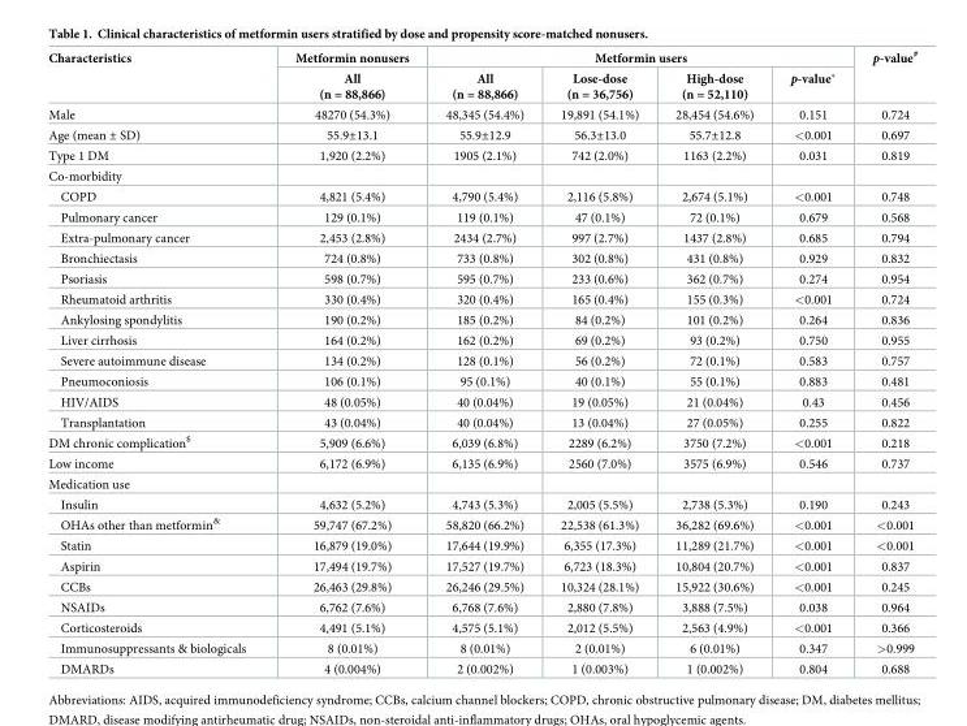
<table><thead><tr><td rowspan="2">Characteristics</td><td rowspan="2">Metformin nonusers All (n = 88,866)</td><td colspan="4">Metformin users</td><td rowspan="2">p-value<sup>#</sup></td></tr><tr><td>All (n = 88,866)</td><td>Lose-dose (n = 36,756)</td><td>High-dose (n = 52,110)</td><td>p-value*</td></tr></thead><tbody><tr><td>Male</td><td>48270 (54.3%)</td><td>48,345 (54.4%)</td><td>19,891 (54.1%)</td><td>28,454 (54.6%)</td><td>0.151</td><td>0.724</td></tr><tr><td>Age (mean ± SD)</td><td>55.9±13.1</td><td>55.9±12.9</td><td>56.3±13.0</td><td>55.7±12.8</td><td>&lt;0.001</td><td>0.697</td></tr><tr><td>Type 1 DM</td><td>1,920 (2.2%)</td><td>1905 (2.1%)</td><td>742 (2.0%)</td><td>1163 (2.2%)</td><td>0.031</td><td>0.819</td></tr><tr><td colspan="7">Co-morbidity</td></tr><tr><td>COPD</td><td>4,821 (5.4%)</td><td>4,790 (5.4%)</td><td>2,116 (5.8%)</td><td>2,674 (5.1%)</td><td>&lt;0.001</td><td>0.748</td></tr><tr><td>Pulmonary cancer</td><td>129 (0.1%)</td><td>119 (0.1%)</td><td>47 (0.1%)</td><td>72 (0.1%)</td><td>0.679</td><td>0.568</td></tr><tr><td>Extra-pulmonary cancer</td><td>2,453 (2.8%)</td><td>2434 (2.7%)</td><td>997 (2.7%)</td><td>1437 (2.8%)</td><td>0.685</td><td>0.794</td></tr><tr><td>Bronchiectasis</td><td>724 (0.8%)</td><td>733 (0.8%)</td><td>302 (0.8%)</td><td>431 (0.8%)</td><td>0.929</td><td>0.832</td></tr><tr><td>Psoriasis</td><td>598 (0.7%)</td><td>595 (0.7%)</td><td>233 (0.6%)</td><td>362 (0.7%)</td><td>0.274</td><td>0.954</td></tr><tr><td>Rheumatoid arthritis</td><td>330 (0.4%)</td><td>320 (0.4%)</td><td>165 (0.4%)</td><td>155 (0.3%)</td><td>&lt;0.001</td><td>0.724</td></tr><tr><td>Ankylosing spondylitis</td><td>190 (0.2%)</td><td>185 (0.2%)</td><td>84 (0.2%)</td><td>101 (0.2%)</td><td>0.264</td><td>0.836</td></tr><tr><td>Liver cirrhosis</td><td>164 (0.2%)</td><td>162 (0.2%)</td><td>69 (0.2%)</td><td>93 (0.2%)</td><td>0.750</td><td>0.955</td></tr><tr><td>Severe autoimmune disease</td><td>134 (0.2%)</td><td>128 (0.1%)</td><td>56 (0.2%)</td><td>72 (0.1%)</td><td>0.583</td><td>0.757</td></tr><tr><td>Pneumoconiosis</td><td>106 (0.1%)</td><td>95 (0.1%)</td><td>40 (0.1%)</td><td>55 (0.1%)</td><td>0.883</td><td>0.481</td></tr><tr><td>HIV/AIDS</td><td>48 (0.05%)</td><td>40 (0.04%)</td><td>19 (0.05%)</td><td>21 (0.04%)</td><td>0.43</td><td>0.456</td></tr><tr><td>Transplantation</td><td>43 (0.04%)</td><td>40 (0.04%)</td><td>13 (0.04%)</td><td>27 (0.05%)</td><td>0.255</td><td>0.822</td></tr><tr><td>DM chronic complication<sup>$</sup></td><td>5,909 (6.6%)</td><td>6,039 (6.8%)</td><td>2289 (6.2%)</td><td>3750 (7.2%)</td><td>&lt;0.001</td><td>0.218</td></tr><tr><td>Low income</td><td>6,172 (6.9%)</td><td>6,135 (6.9%)</td><td>2560 (7.0%)</td><td>3575 (6.9%)</td><td>0.546</td><td>0.737</td></tr><tr><td colspan="7">Medication use</td></tr><tr><td>Insulin</td><td>4,632 (5.2%)</td><td>4,743 (5.3%)</td><td>2,005 (5.5%)</td><td>2,738 (5.3%)</td><td>0.190</td><td>0.243</td></tr><tr><td>OHAs other than metformin<sup>&amp;</sup></td><td>59,747 (67.2%)</td><td>58,820 (66.2%)</td><td>22,538 (61.3%)</td><td>36,282 (69.6%)</td><td>&lt;0.001</td><td>&lt;0.001</td></tr><tr><td>Statin</td><td>16,879 (19.0%)</td><td>17,644 (19.9%)</td><td>6,355 (17.3%)</td><td>11,289 (21.7%)</td><td>&lt;0.001</td><td>&lt;0.001</td></tr><tr><td>Aspirin</td><td>17,494 (19.7%)</td><td>17,527 (19.7%)</td><td>6,723 (18.3%)</td><td>10,804 (20.7%)</td><td>&lt;0.001</td><td>0.837</td></tr><tr><td>CCBs</td><td>26,463 (29.8%)</td><td>26,246 (29.5%)</td><td>10,324 (28.1%)</td><td>15,922 (30.6%)</td><td>&lt;0.001</td><td>0.245</td></tr><tr><td>NSAIDs</td><td>6,762 (7.6%)</td><td>6,768 (7.6%)</td><td>2,880 (7.8%)</td><td>3,888 (7.5%)</td><td>0.038</td><td>0.964</td></tr><tr><td>Corticosteroids</td><td>4,491 (5.1%)</td><td>4,575 (5.1%)</td><td>2,012 (5.5%)</td><td>2,563 (4.9%)</td><td>&lt;0.001</td><td>0.366</td></tr><tr><td>Immunosuppressants &amp; biologicals</td><td>8 (0.01%)</td><td>8 (0.01%)</td><td>2 (0.01%)</td><td>6 (0.01%)</td><td>0.347</td><td>&gt;0.999</td></tr><tr><td>DMARDs</td><td>4 (0.004%)</td><td>2 (0.002%)</td><td>1 (0.003%)</td><td>1 (0.002%)</td><td>0.804</td><td>0.688</td></tr></tbody></table>